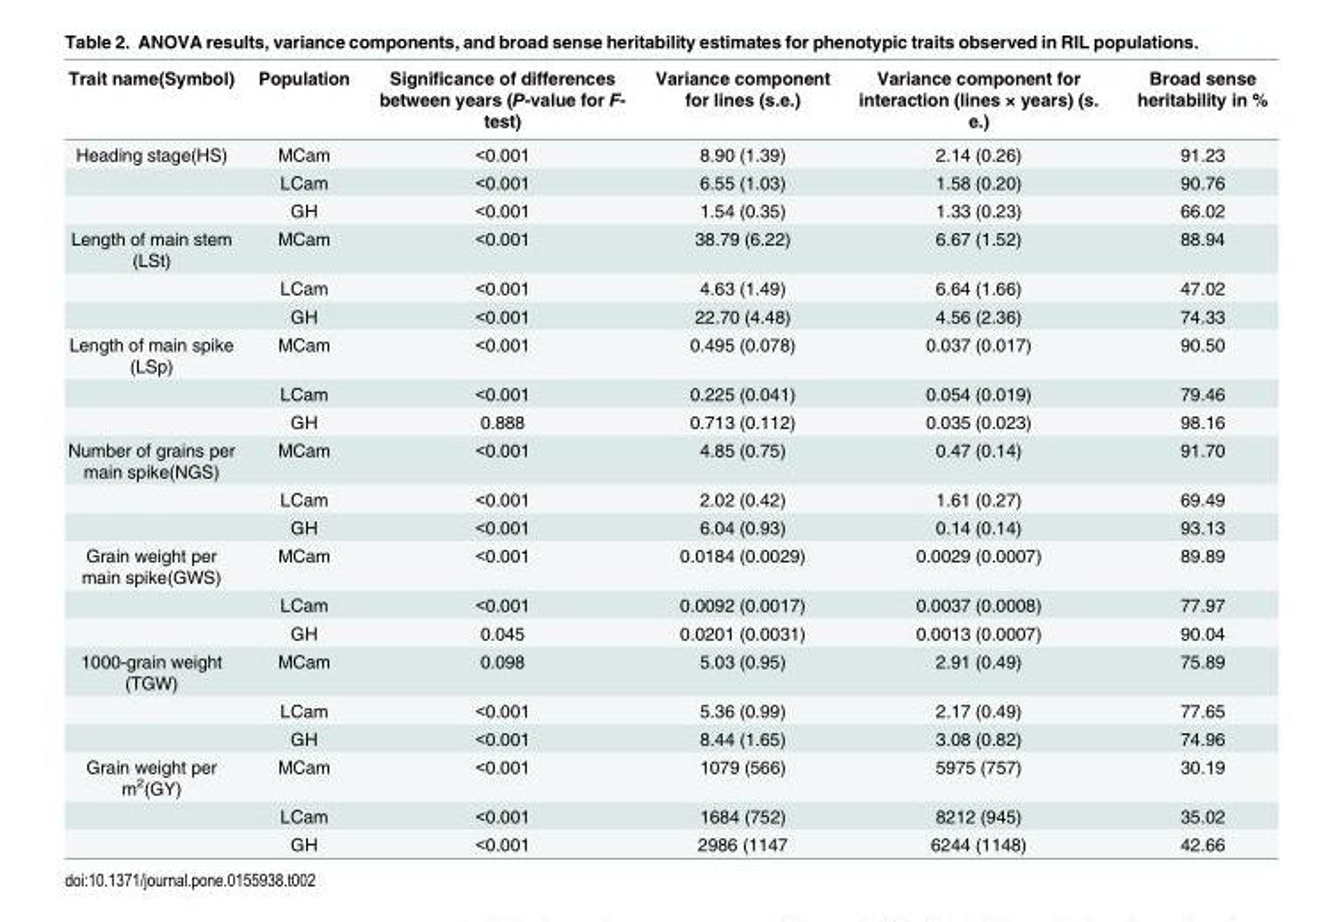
<table><thead><tr><td>Trait name(Symbol)</td><td>Population</td><td>Significance of differences between years (P-value for F- test)</td><td>Variance component for lines (s.e.)</td><td>Variance component for interaction (lines × years) (s. e.)</td><td>Broad sense heritability in %</td></tr></thead><tbody><tr><td rowspan="3">Heading stage(HS)</td><td>MCam</td><td>&lt;0.001</td><td>8.90 (1.39)</td><td>2.14 (0.26)</td><td>91.23</td></tr><tr><td>LCam</td><td>&lt;0.001</td><td>6.55 (1.03)</td><td>1.58 (0.20)</td><td>90.76</td></tr><tr><td>GH</td><td>&lt;0.001</td><td>1.54 (0.35)</td><td>1.33 (0.23)</td><td>66.02</td></tr><tr><td rowspan="3">Length of main stem (LSt)</td><td>MCam</td><td>&lt;0.001</td><td>38.79 (6.22)</td><td>6.67 (1.52)</td><td>88.94</td></tr><tr><td>LCam</td><td>&lt;0.001</td><td>4.63 (1.49)</td><td>6.64 (1.66)</td><td>47.02</td></tr><tr><td>GH</td><td>&lt;0.001</td><td>22.70 (4.48)</td><td>4.56 (2.36)</td><td>74.33</td></tr><tr><td rowspan="3">Length of main spike (LSp)</td><td>MCam</td><td>&lt;0.001</td><td>0.495 (0.078)</td><td>0.037 (0.017)</td><td>90.50</td></tr><tr><td>LCam</td><td>&lt;0.001</td><td>0.225 (0.041)</td><td>0.054 (0.019)</td><td>79.46</td></tr><tr><td>GH</td><td>0.888</td><td>0.713 (0.112)</td><td>0.035 (0.023)</td><td>98.16</td></tr><tr><td rowspan="3">Number of grains per main spike(NGS)</td><td>MCam</td><td>&lt;0.001</td><td>4.85 (0.75)</td><td>0.47 (0.14)</td><td>91.70</td></tr><tr><td>LCam</td><td>&lt;0.001</td><td>2.02 (0.42)</td><td>1.61 (0.27)</td><td>69.49</td></tr><tr><td>GH</td><td>&lt;0.001</td><td>6.04 (0.93)</td><td>0.14 (0.14)</td><td>93.13</td></tr><tr><td rowspan="3">Grain weight per main spike(GWS)</td><td>MCam</td><td>&lt;0.001</td><td>0.0184 (0.0029)</td><td>0.0029 (0.0007)</td><td>89.89</td></tr><tr><td>LCam</td><td>&lt;0.001</td><td>0.0092 (0.0017)</td><td>0.0037 (0.0008)</td><td>77.97</td></tr><tr><td>GH</td><td>0.045</td><td>0.0201 (0.0031)</td><td>0.0013 (0.0007)</td><td>90.04</td></tr><tr><td rowspan="3">1000-grain weight (TGW)</td><td>MCam</td><td>0.098</td><td>5.03 (0.95)</td><td>2.91 (0.49)</td><td>75.89</td></tr><tr><td>LCam</td><td>&lt;0.001</td><td>5.36 (0.99)</td><td>2.17 (0.49)</td><td>77.65</td></tr><tr><td>GH</td><td>&lt;0.001</td><td>8.44 (1.65)</td><td>3.08 (0.82)</td><td>74.96</td></tr><tr><td rowspan="3">Grain weight per m<sup>2</sup>(GY)</td><td>MCam</td><td>&lt;0.001</td><td>1079 (566)</td><td>5975 (757)</td><td>30.19</td></tr><tr><td>LCam</td><td>&lt;0.001</td><td>1684 (752)</td><td>8212 (945)</td><td>35.02</td></tr><tr><td>GH</td><td>&lt;0.001</td><td>2986 (1147</td><td>6244 (1148)</td><td>42.66</td></tr></tbody></table>